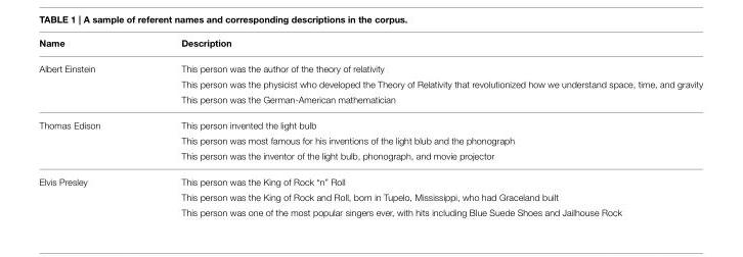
<table><thead><tr><td>Name</td><td>Description</td></tr></thead><tbody><tr><td rowspan="3">Albert Einstein</td><td>This person was the author of the theory of relativity</td></tr><tr><td>This person was the physicist who developed the Theory of Relativity that revolutionized how we understand space, time, and gravity</td></tr><tr><td>This person was the German-American mathematician</td></tr><tr><td rowspan="3">Thomas Edison</td><td>This person invented the light bulb</td></tr><tr><td>This person was most famous for his inventions of the light blub and the phonograph</td></tr><tr><td>This person was the inventor of the light bulb, phonograph, and movie projector</td></tr><tr><td rowspan="3">Elvis Presley</td><td>This person was the King of Rock “n” Roll</td></tr><tr><td>This person was the King of Rock and Roll, born in Tupelo, Mississippi, who had Graceland built</td></tr><tr><td>This person was one of the most popular singers ever, with hits including Blue Suede Shoes and Jailhouse Rock</td></tr></tbody></table>